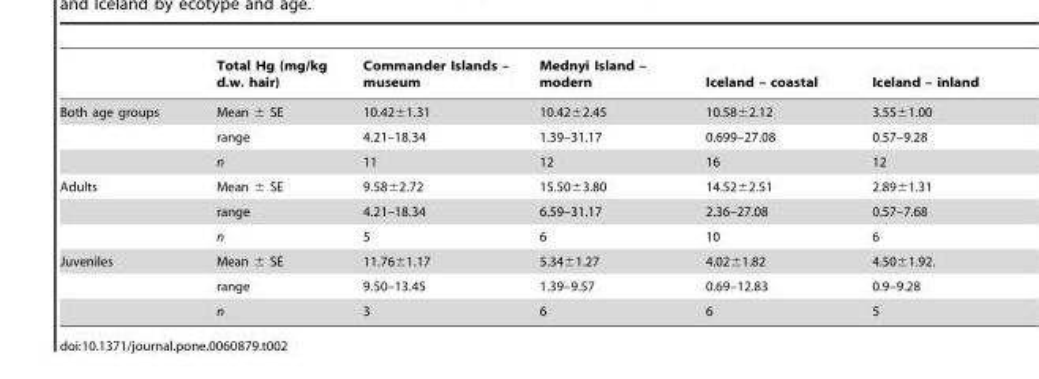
<table><thead><tr><td></td><td>Total Hg (mg/kg d.w. hair)</td><td>Commander Islands – museum</td><td>Mednyi Island – modern</td><td>Iceland – coastal</td><td>Iceland – inland</td></tr></thead><tbody><tr><td rowspan="3">Both age groups</td><td>Mean ± SE</td><td>10.42±1.31</td><td>10.42±2.45</td><td>10.58±2.12</td><td>3.55±1.00</td></tr><tr><td>range</td><td>4.21–18.34</td><td>1.39–31.17</td><td>0.699–27.08</td><td>0.57–9.28</td></tr><tr><td>n</td><td>11</td><td>12</td><td>16</td><td>12</td></tr><tr><td rowspan="3">Adults</td><td>Mean ± SE</td><td>9.58±2.72</td><td>15.50±3.80</td><td>14.52±2.51</td><td>2.89±1.31</td></tr><tr><td>range</td><td>4.21–18.34</td><td>6.59–31.17</td><td>2.36–27.08</td><td>0.57–7.68</td></tr><tr><td>n</td><td>5</td><td>6</td><td>10</td><td>6</td></tr><tr><td rowspan="3">Juveniles</td><td>Mean ± SE</td><td>11.76±1.17</td><td>5.34±1.27</td><td>4.02±1.82</td><td>4.50±1.92.</td></tr><tr><td>range</td><td>9.50–13.45</td><td>1.39–9.57</td><td>0.69–12.83</td><td>0.9–9.28</td></tr><tr><td>n</td><td>3</td><td>6</td><td>6</td><td>5</td></tr></tbody></table>